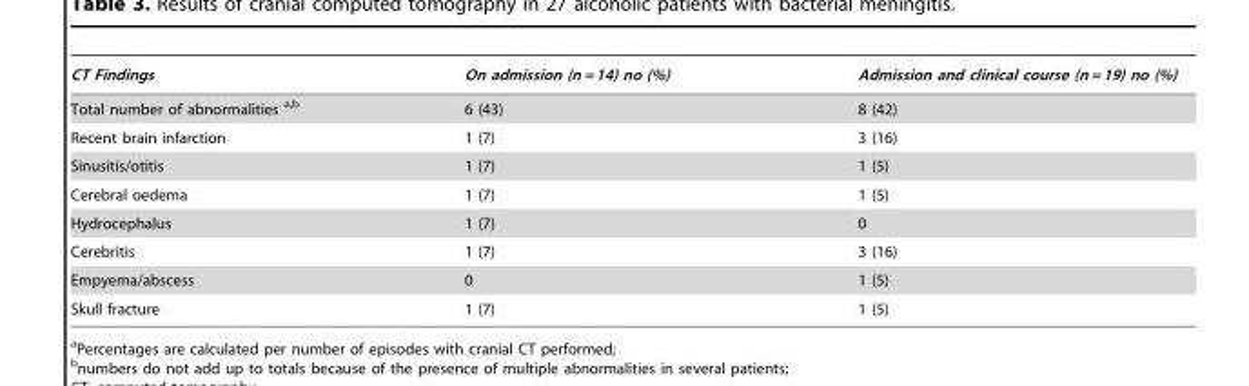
<table><thead><tr><td>CT Findings</td><td>On admission (n = 14) no (%)</td><td>Admission and clinical course (n = 19) no (%)</td></tr></thead><tbody><tr><td>Total number of abnormalities a,b</td><td>6 (43)</td><td>8 (42)</td></tr><tr><td>Recent brain infarction</td><td>1 (7)</td><td>3 (16)</td></tr><tr><td>Sinusitis/otitis</td><td>1 (7)</td><td>1 (5)</td></tr><tr><td>Cerebral oedema</td><td>1 (7)</td><td>1 (5)</td></tr><tr><td>Hydrocephalus</td><td>1 (7)</td><td>0</td></tr><tr><td>Cerebritis</td><td>1 (7)</td><td>3 (16)</td></tr><tr><td>Empyema/abscess</td><td>0</td><td>1 (5)</td></tr><tr><td>Skull fracture</td><td>1 (7)</td><td>1 (5)</td></tr></tbody></table>